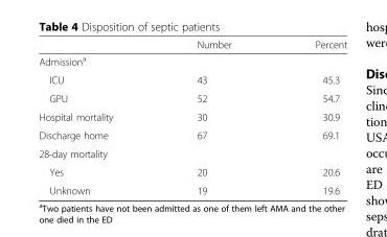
<table><thead><tr><td></td><td>Number</td><td>Percent</td></tr></thead><tbody><tr><td colspan="3">Admission<sup>a</sup></td></tr><tr><td>ICU</td><td>43</td><td>45.3</td></tr><tr><td>GPU</td><td>52</td><td>54.7</td></tr><tr><td>Hospital mortality</td><td>30</td><td>30.9</td></tr><tr><td>Discharge home</td><td>67</td><td>69.1</td></tr><tr><td colspan="3">28-day mortality</td></tr><tr><td>Yes</td><td>20</td><td>20.6</td></tr><tr><td>Unknown</td><td>19</td><td>19.6</td></tr></tbody></table>